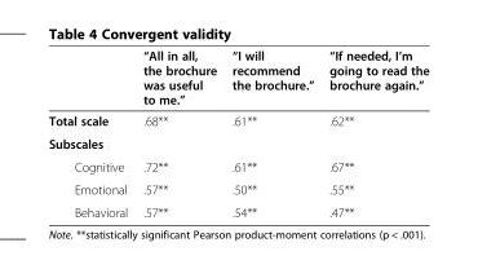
<table><thead><tr><td></td><td>“All in all, the brochure was useful to me.”</td><td>“I will recommend the brochure.”</td><td>“If needed, I’m going to read the brochure again.”</td></tr></thead><tbody><tr><td>Total scale</td><td>.68**</td><td>.61**</td><td>.62**</td></tr><tr><td colspan="4">Subscales</td></tr><tr><td>Cognitive</td><td>.72**</td><td>.61**</td><td>.67**</td></tr><tr><td>Emotional</td><td>.57**</td><td>.50**</td><td>.55**</td></tr><tr><td>Behavioral</td><td>.57**</td><td>.54**</td><td>.47**</td></tr></tbody></table>